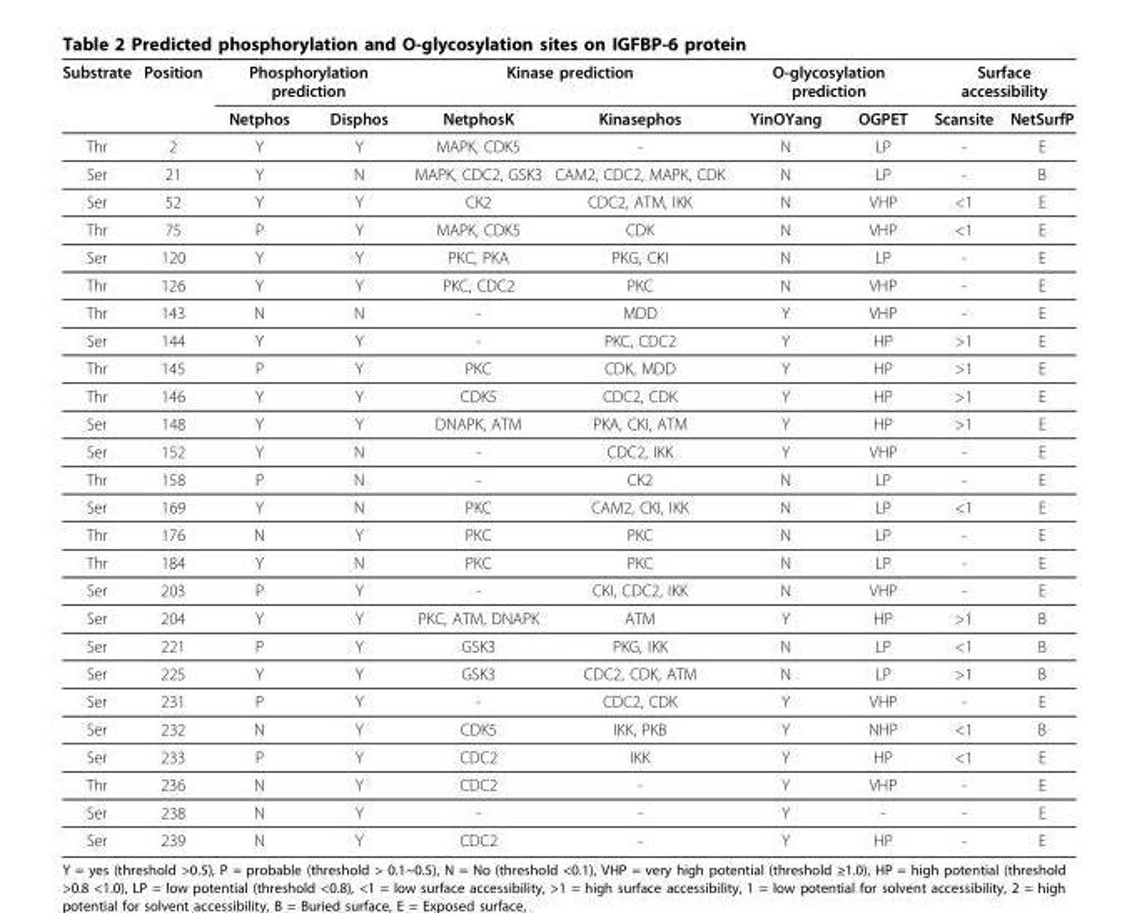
<table><thead><tr><td rowspan="2">Substrate</td><td rowspan="2">Position</td><td colspan="2">Phosphorylation prediction</td><td colspan="2">Kinase prediction</td><td colspan="2">O-glycosylation prediction</td><td colspan="2">Surface accessibility</td></tr><tr><td>Netphos</td><td>Disphos</td><td>NetphosK</td><td>Kinasephos</td><td>YinOYang</td><td>OGPET</td><td>Scansite</td><td>NetSurfP</td></tr></thead><tbody><tr><td>Thr</td><td>2</td><td>Y</td><td>Y</td><td>MAPK, CDK5</td><td>-</td><td>N</td><td>LP</td><td>-</td><td>E</td></tr><tr><td>Ser</td><td>21</td><td>Y</td><td>N</td><td>MAPK, CDC2, GSK3</td><td>CAM2, CDC2, MAPK, CDK</td><td>N</td><td>LP</td><td>-</td><td>B</td></tr><tr><td>Ser</td><td>52</td><td>Y</td><td>Y</td><td>CK2</td><td>CDC2, ATM, IKK</td><td>N</td><td>VHP</td><td>&lt;1</td><td>E</td></tr><tr><td>Thr</td><td>75</td><td>P</td><td>Y</td><td>MAPK, CDK5</td><td>CDK</td><td>N</td><td>VHP</td><td>&lt;1</td><td>E</td></tr><tr><td>Ser</td><td>120</td><td>Y</td><td>Y</td><td>PKC, PKA</td><td>PKG, CKI</td><td>N</td><td>LP</td><td>-</td><td>E</td></tr><tr><td>Thr</td><td>126</td><td>Y</td><td>Y</td><td>PKC, CDC2</td><td>PKC</td><td>N</td><td>VHP</td><td>-</td><td>E</td></tr><tr><td>Thr</td><td>143</td><td>N</td><td>N</td><td>-</td><td>MDD</td><td>Y</td><td>VHP</td><td>-</td><td>E</td></tr><tr><td>Ser</td><td>144</td><td>Y</td><td>Y</td><td>-</td><td>PKC, CDC2</td><td>Y</td><td>HP</td><td>&gt;1</td><td>E</td></tr><tr><td>Thr</td><td>145</td><td>P</td><td>Y</td><td>PKC</td><td>CDK, MDD</td><td>Y</td><td>HP</td><td>&gt;1</td><td>E</td></tr><tr><td>Thr</td><td>146</td><td>Y</td><td>Y</td><td>CDK5</td><td>CDC2, CDK</td><td>Y</td><td>HP</td><td>&gt;1</td><td>E</td></tr><tr><td>Ser</td><td>148</td><td>Y</td><td>Y</td><td>DNAPK, ATM</td><td>PKA, CKI, ATM</td><td>Y</td><td>HP</td><td>&gt;1</td><td>E</td></tr><tr><td>Ser</td><td>152</td><td>Y</td><td>N</td><td>-</td><td>CDC2, IKK</td><td>Y</td><td>VHP</td><td>-</td><td>E</td></tr><tr><td>Thr</td><td>158</td><td>P</td><td>N</td><td>-</td><td>CK2</td><td>N</td><td>LP</td><td>-</td><td>E</td></tr><tr><td>Ser</td><td>169</td><td>Y</td><td>N</td><td>PKC</td><td>CAM2, CKI, IKK</td><td>N</td><td>LP</td><td>&lt;1</td><td>E</td></tr><tr><td>Thr</td><td>176</td><td>N</td><td>Y</td><td>PKC</td><td>PKC</td><td>N</td><td>LP</td><td>-</td><td>E</td></tr><tr><td>Thr</td><td>184</td><td>Y</td><td>N</td><td>PKC</td><td>PKC</td><td>N</td><td>LP</td><td>-</td><td>E</td></tr><tr><td>Ser</td><td>203</td><td>P</td><td>Y</td><td>-</td><td>CKI, CDC2, IKK</td><td>N</td><td>VHP</td><td>-</td><td>E</td></tr><tr><td>Ser</td><td>204</td><td>Y</td><td>Y</td><td>PKC, ATM, DNAPK</td><td>ATM</td><td>Y</td><td>HP</td><td>&gt;1</td><td>B</td></tr><tr><td>Ser</td><td>221</td><td>P</td><td>Y</td><td>GSK3</td><td>PKG, IKK</td><td>N</td><td>LP</td><td>&lt;1</td><td>B</td></tr><tr><td>Ser</td><td>225</td><td>Y</td><td>Y</td><td>GSK3</td><td>CDC2, CDK, ATM</td><td>N</td><td>LP</td><td>&gt;1</td><td>B</td></tr><tr><td>Ser</td><td>231</td><td>P</td><td>Y</td><td>-</td><td>CDC2, CDK</td><td>Y</td><td>VHP</td><td>-</td><td>E</td></tr><tr><td>Ser</td><td>232</td><td>N</td><td>Y</td><td>CDK5</td><td>IKK, PKB</td><td>Y</td><td>NHP</td><td>&lt;1</td><td>B</td></tr><tr><td>Ser</td><td>233</td><td>P</td><td>Y</td><td>CDC2</td><td>IKK</td><td>Y</td><td>HP</td><td>&lt;1</td><td>E</td></tr><tr><td>Thr</td><td>236</td><td>N</td><td>Y</td><td>CDC2</td><td>-</td><td>Y</td><td>VHP</td><td>-</td><td>E</td></tr><tr><td>Ser</td><td>238</td><td>N</td><td>Y</td><td>-</td><td>-</td><td>Y</td><td>-</td><td>-</td><td>E</td></tr><tr><td>Ser</td><td>239</td><td>N</td><td>Y</td><td>CDC2</td><td>-</td><td>Y</td><td>HP</td><td>-</td><td>E</td></tr></tbody></table>